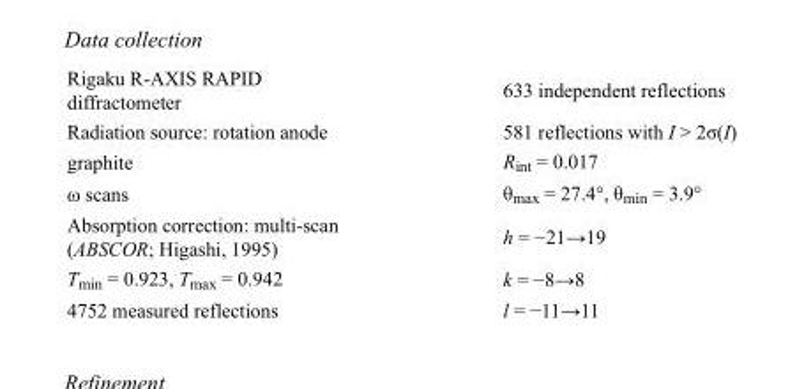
<table><tbody><tr><td>Rigaku R-AXIS RAPID diffractometer</td><td>633 independent reflections</td></tr><tr><td>Radiation source: rotation anode</td><td>581 reflections with I &gt; 2σ(I)</td></tr><tr><td>graphite</td><td>R<sub>int</sub> = 0.017</td></tr><tr><td>ω scans</td><td>θ<sub>max</sub> = 27.4°, θ<sub>min</sub> = 3.9°</td></tr><tr><td>Absorption correction: multi-scan (ABSCOR; Higashi, 1995)</td><td>h = −21→19</td></tr><tr><td>T<sub>min</sub> = 0.923, T<sub>max</sub> = 0.942</td><td>k = −8→8</td></tr><tr><td>4752 measured reflections</td><td>l = −11→11</td></tr></tbody></table>